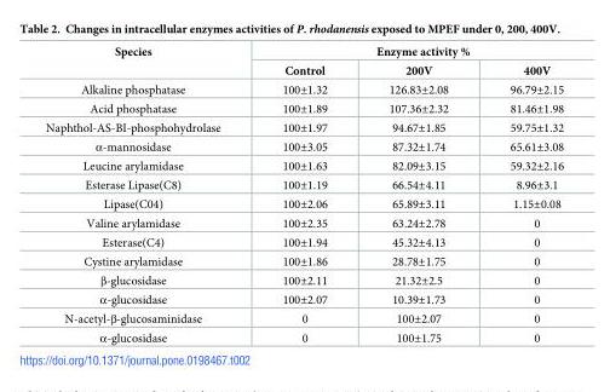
<table><thead><tr><td rowspan="2">Species</td><td colspan="3">Enzyme activity %</td></tr><tr><td>Control</td><td>200V</td><td>400V</td></tr></thead><tbody><tr><td>Alkaline phosphatase</td><td>100±1.32</td><td>126.83±2.08</td><td>96.79±2.15</td></tr><tr><td>Acid phosphatase</td><td>100±1.89</td><td>107.36±2.32</td><td>81.46±1.98</td></tr><tr><td>Naphthol-AS-BI-phosphohydrolase</td><td>100±1.97</td><td>94.67±1.85</td><td>59.75±1.32</td></tr><tr><td>α-mannosidase</td><td>100±3.05</td><td>87.32±1.74</td><td>65.61±3.08</td></tr><tr><td>Leucine arylamidase</td><td>100±1.63</td><td>82.09±3.15</td><td>59.32±2.16</td></tr><tr><td>Esterase Lipase(C8)</td><td>100±1.19</td><td>66.54±4.11</td><td>8.96±3.1</td></tr><tr><td>Lipase(C04)</td><td>100±2.06</td><td>65.89±3.11</td><td>1.15±0.08</td></tr><tr><td>Valine arylamidase</td><td>100±2.35</td><td>63.24±2.78</td><td>0</td></tr><tr><td>Esterase(C4)</td><td>100±1.94</td><td>45.32±4.13</td><td>0</td></tr><tr><td>Cystine arylamidase</td><td>100±1.86</td><td>28.78±1.75</td><td>0</td></tr><tr><td>β-glucosidase</td><td>100±2.11</td><td>21.32±2.5</td><td>0</td></tr><tr><td>α-glucosidase</td><td>100±2.07</td><td>10.39±1.73</td><td>0</td></tr><tr><td>N-acetyl-β-glucosaminidase</td><td>0</td><td>100±2.07</td><td>0</td></tr><tr><td>α-glucosidase</td><td>0</td><td>100±1.75</td><td>0</td></tr></tbody></table>